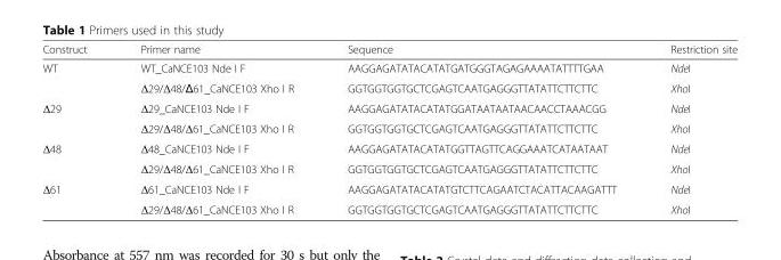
<table><thead><tr><td>Construct</td><td>Primer name</td><td>Sequence</td><td>Restriction site</td></tr></thead><tbody><tr><td rowspan="2">WT</td><td>WT_CaNCE103 Nde I F</td><td>AAGGAGATATACATATGATGGGTAGAGAAAATATTTTGAA</td><td>NdeI</td></tr><tr><td>Δ29/Δ48/Δ61_CaNCE103 Xho I R</td><td>GGTGGTGGTGCTCGAGTCAATGAGGGTTATATTCTTCTTC</td><td>XhoI</td></tr><tr><td rowspan="2">Δ29</td><td>Δ29_CaNCE103 Nde I F</td><td>AAGGAGATATACATATGGATAATAATAACAACCTAAACGG</td><td>NdeI</td></tr><tr><td>Δ29/Δ48/Δ61_CaNCE103 Xho I R</td><td>GGTGGTGGTGCTCGAGTCAATGAGGGTTATATTCTTCTTC</td><td>XhoI</td></tr><tr><td rowspan="2">Δ48</td><td>Δ48_CaNCE103 Nde I F</td><td>AAGGAGATATACATATGGTTAGTTCAGGAAATCATAATAAT</td><td>NdeI</td></tr><tr><td>Δ29/Δ48/Δ61_CaNCE103 Xho I R</td><td>GGTGGTGGTGCTCGAGTCAATGAGGGTTATATTCTTCTTC</td><td>XhoI</td></tr><tr><td rowspan="2">Δ61</td><td>Δ61_CaNCE103 Nde I F</td><td>AAGGAGATATACATATGTCTTCAGAATCTACATTACAAGATTT</td><td>NdeI</td></tr><tr><td>Δ29/Δ48/Δ61_CaNCE103 Xho I R</td><td>GGTGGTGGTGCTCGAGTCAATGAGGGTTATATTCTTCTTC</td><td>XhoI</td></tr></tbody></table>